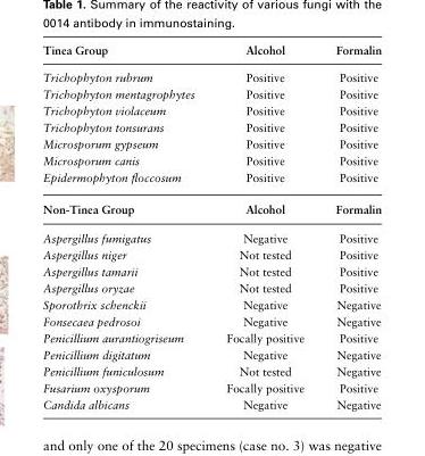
<table><thead><tr><td>Tinea Group</td><td>Alcohol</td><td>Formalin</td></tr></thead><tbody><tr><td>Trichophyton rubrum</td><td>Positive</td><td>Positive</td></tr><tr><td>Trichophyton mentagrophytes</td><td>Positive</td><td>Positive</td></tr><tr><td>Trichophyton violaceum</td><td>Positive</td><td>Positive</td></tr><tr><td>Trichophyton tonsurans</td><td>Positive</td><td>Positive</td></tr><tr><td>Microsporum gypseum</td><td>Positive</td><td>Positive</td></tr><tr><td>Microsporum canis</td><td>Positive</td><td>Positive</td></tr><tr><td>Epidermophyton floccosum</td><td>Positive</td><td>Positive</td></tr><tr><td>Non-Tinea Group</td><td>Alcohol</td><td>Formalin</td></tr><tr><td>Aspergillus fumigatus</td><td>Negative</td><td>Positive</td></tr><tr><td>Aspergillus niger</td><td>Not tested</td><td>Positive</td></tr><tr><td>Aspergillus tamarii</td><td>Not tested</td><td>Positive</td></tr><tr><td>Aspergillus oryzae</td><td>Not tested</td><td>Positive</td></tr><tr><td>Sporothrix schenckii</td><td>Negative</td><td>Negative</td></tr><tr><td>Fonsecaea pedrosoi</td><td>Negative</td><td>Negative</td></tr><tr><td>Penicillium aurantiogriseum</td><td>Focally positive</td><td>Positive</td></tr><tr><td>Penicillium digitatum</td><td>Negative</td><td>Negative</td></tr><tr><td>Penicillium funiculosum</td><td>Not tested</td><td>Negative</td></tr><tr><td>Fusarium oxysporum</td><td>Focally positive</td><td>Positive</td></tr><tr><td>Candida albicans</td><td>Negative</td><td>Negative</td></tr></tbody></table>